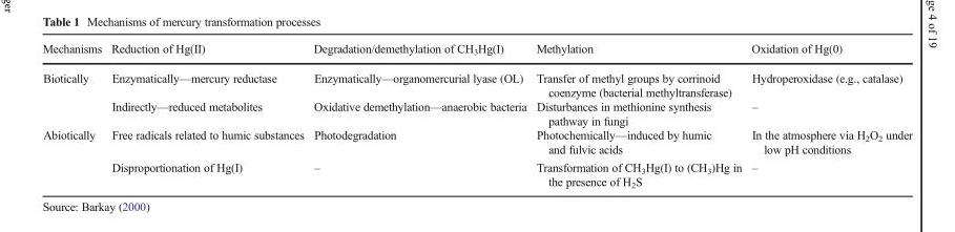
<table><thead><tr><td>Mechanisms</td><td>Reduction of Hg(II)</td><td>Degradation/demethylation of CH<sub>3</sub>Hg(I)</td><td>Methylation</td><td>Oxidation of Hg(0)</td></tr></thead><tbody><tr><td rowspan="2">Biotically</td><td>Enzymatically—mercury reductase</td><td>Enzymatically—organomercurial lyase (OL)</td><td>Transfer of methyl groups by corrinoid coenzyme (bacterial methyltransferase)</td><td>Hydroperoxidase (e.g., catalase)</td></tr><tr><td>Indirectly—reduced metabolites</td><td>Oxidative demethylation—anaerobic bacteria</td><td>Disturbances in methionine synthesis pathway in fungi</td><td>–</td></tr><tr><td rowspan="2">Abiotically</td><td>Free radicals related to humic substances</td><td>Photodegradation</td><td>Photochemically—induced by humic and fulvic acids</td><td>In the atmosphere via H<sub>2</sub>O<sub>2</sub> under low pH conditions</td></tr><tr><td>Disproportionation of Hg(I)</td><td>–</td><td>Transformation of CH<sub>3</sub>Hg(I) to (CH<sub>3</sub>)Hg in the presence of H<sub>2</sub>S</td><td>–</td></tr></tbody></table>